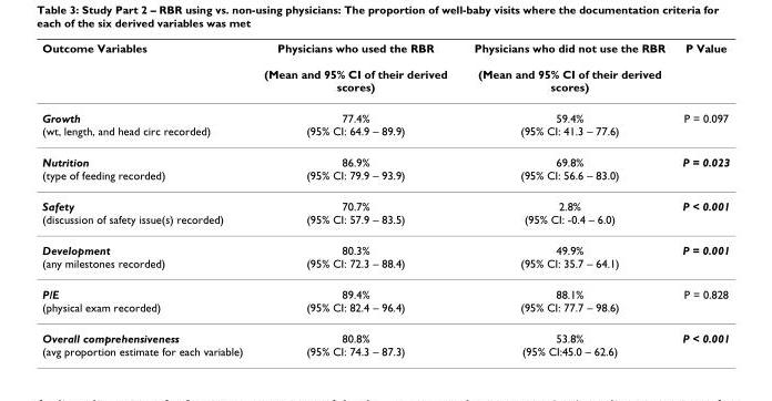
<table><thead><tr><td>Outcome Variables</td><td>Physicians who used the RBR (Mean and 95% CI of their derived scores)</td><td>Physicians who did not use the RBR (Mean and 95% CI of their derived scores)</td><td>P Value</td></tr></thead><tbody><tr><td>Growth (wt, length, and head circ recorded)</td><td>77.4% (95% CI: 64.9 – 89.9)</td><td>59.4% (95% CI: 41.3 – 77.6)</td><td>P = 0.097</td></tr><tr><td>Nutrition (type of feeding recorded)</td><td>86.9% (95% CI: 79.9 – 93.9)</td><td>69.8% (95% CI: 56.6 – 83.0)</td><td>P = 0.023</td></tr><tr><td>Safety (discussion of safety issue(s) recorded)</td><td>70.7% (95% CI: 57.9 – 83.5)</td><td>2.8% (95% CI: -0.4 – 6.0)</td><td>P &lt; 0.001</td></tr><tr><td>Development (any milestones recorded)</td><td>80.3% (95% CI: 72.3 – 88.4)</td><td>49.9% (95% CI: 35.7 – 64.1)</td><td>P = 0.001</td></tr><tr><td>P/E (physical exam recorded)</td><td>89.4% (95% CI: 82.4 – 96.4)</td><td>88.1% (95% CI: 77.7 – 98.6)</td><td>P = 0.828</td></tr><tr><td>Overall comprehensiveness (avg proportion estimate for each variable)</td><td>80.8% (95% CI: 74.3 – 87.3)</td><td>53.8% (95% CI:45.0 – 62.6)</td><td>P &lt; 0.001</td></tr></tbody></table>